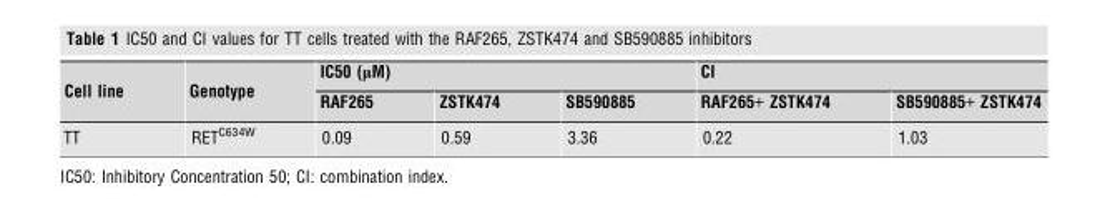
<table><thead><tr><td rowspan="2">Cell line</td><td rowspan="2">Genotype</td><td colspan="3">IC50 (μM)</td><td colspan="2">CI</td></tr><tr><td>RAF265</td><td>ZSTK474</td><td>SB590885</td><td>RAF265+ ZSTK474</td><td>SB590885+ ZSTK474</td></tr></thead><tbody><tr><td>TT</td><td>RET<sup>C634W</sup></td><td>0.09</td><td>0.59</td><td>3.36</td><td>0.22</td><td>1.03</td></tr></tbody></table>